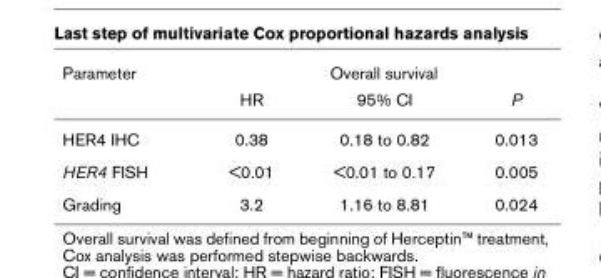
<table><thead><tr><td rowspan="2">Parameter</td><td colspan="3">Overall survival</td></tr><tr><td>HR</td><td>95% CI</td><td>P</td></tr></thead><tbody><tr><td>HER4 IHC</td><td>0.38</td><td>0.18 to 0.82</td><td>0.013</td></tr><tr><td>HER4 FISH</td><td>&lt;0.01</td><td>&lt;0.01 to 0.17</td><td>0.005</td></tr><tr><td>Grading</td><td>3.2</td><td>1.16 to 8.81</td><td>0.024</td></tr></tbody></table>